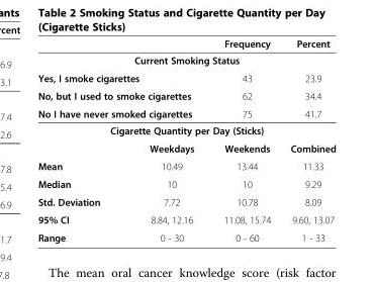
<table><thead><tr><td></td><td></td><td>Frequency</td><td>Percent</td></tr></thead><tbody><tr><td colspan="4">Current Smoking Status</td></tr><tr><td colspan="2">Yes, I smoke cigarettes</td><td>43</td><td>23.9</td></tr><tr><td colspan="2">No, but I used to smoke cigarettes</td><td>62</td><td>34.4</td></tr><tr><td colspan="2">No I have never smoked cigarettes</td><td>75</td><td>41.7</td></tr><tr><td colspan="4">Cigarette Quantity per Day (Sticks)</td></tr><tr><td></td><td>Weekdays</td><td>Weekends</td><td>Combined</td></tr><tr><td>Mean</td><td>10.49</td><td>13.44</td><td>11.33</td></tr><tr><td>Median</td><td>10</td><td>10</td><td>9.29</td></tr><tr><td>Std. Deviation</td><td>7.72</td><td>10.78</td><td>8.09</td></tr><tr><td>95% CI</td><td>8.84, 12.16</td><td>11.08, 15.74</td><td>9.60, 13.07</td></tr><tr><td>Range</td><td>0 - 30</td><td>0 - 60</td><td>1 - 33</td></tr></tbody></table>